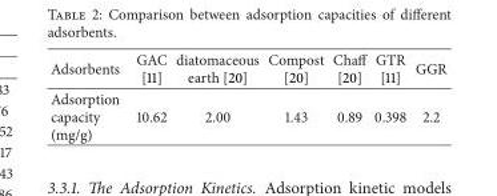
<table><thead><tr><td>Adsorbents</td><td>GAC [11]</td><td>diatomaceous earth [20]</td><td>Compost [20]</td><td>Chaff [20]</td><td>GTR [11]</td><td>GGR</td></tr></thead><tbody><tr><td>Adsorption capacity (mg/g)</td><td>10.62</td><td>2.00</td><td>1.43</td><td>0.89</td><td>0.398</td><td>2.2</td></tr></tbody></table>